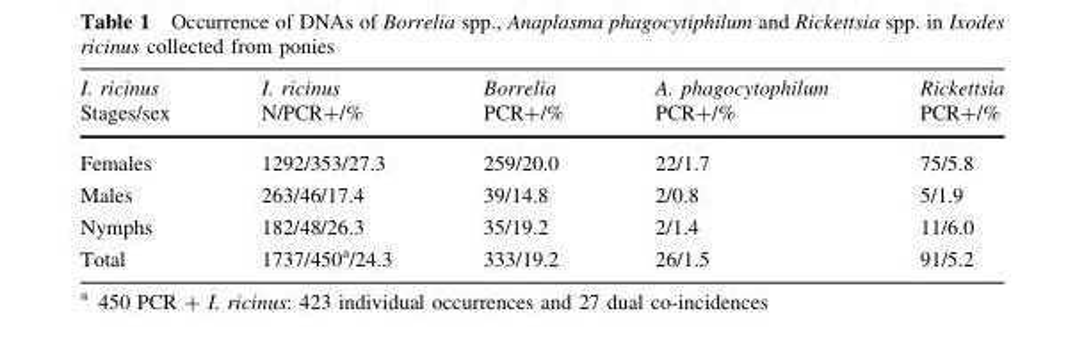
<table><thead><tr><td rowspan="2">I. ricinus Stages/sex</td><td rowspan="2">I. ricinus N/PCR+/%</td><td rowspan="2">Borrelia PCR+/%</td><td rowspan="2">A. phagocytophilum PCR+/%</td><td rowspan="2">Rickettsia PCR+/%</td></tr><tr></tr></thead><tbody><tr><td>Females</td><td>1292/353/27.3</td><td>259/20.0</td><td>22/1.7</td><td>75/5.8</td></tr><tr><td>Males</td><td>263/46/17.4</td><td>39/14.8</td><td>2/0.8</td><td>5/1.9</td></tr><tr><td>Nymphs</td><td>182/48/26.3</td><td>35/19.2</td><td>2/1.4</td><td>11/6.0</td></tr><tr><td>Total</td><td>1737/450<sup>a</sup>/24.3</td><td>333/19.2</td><td>26/1.5</td><td>91/5.2</td></tr></tbody></table>